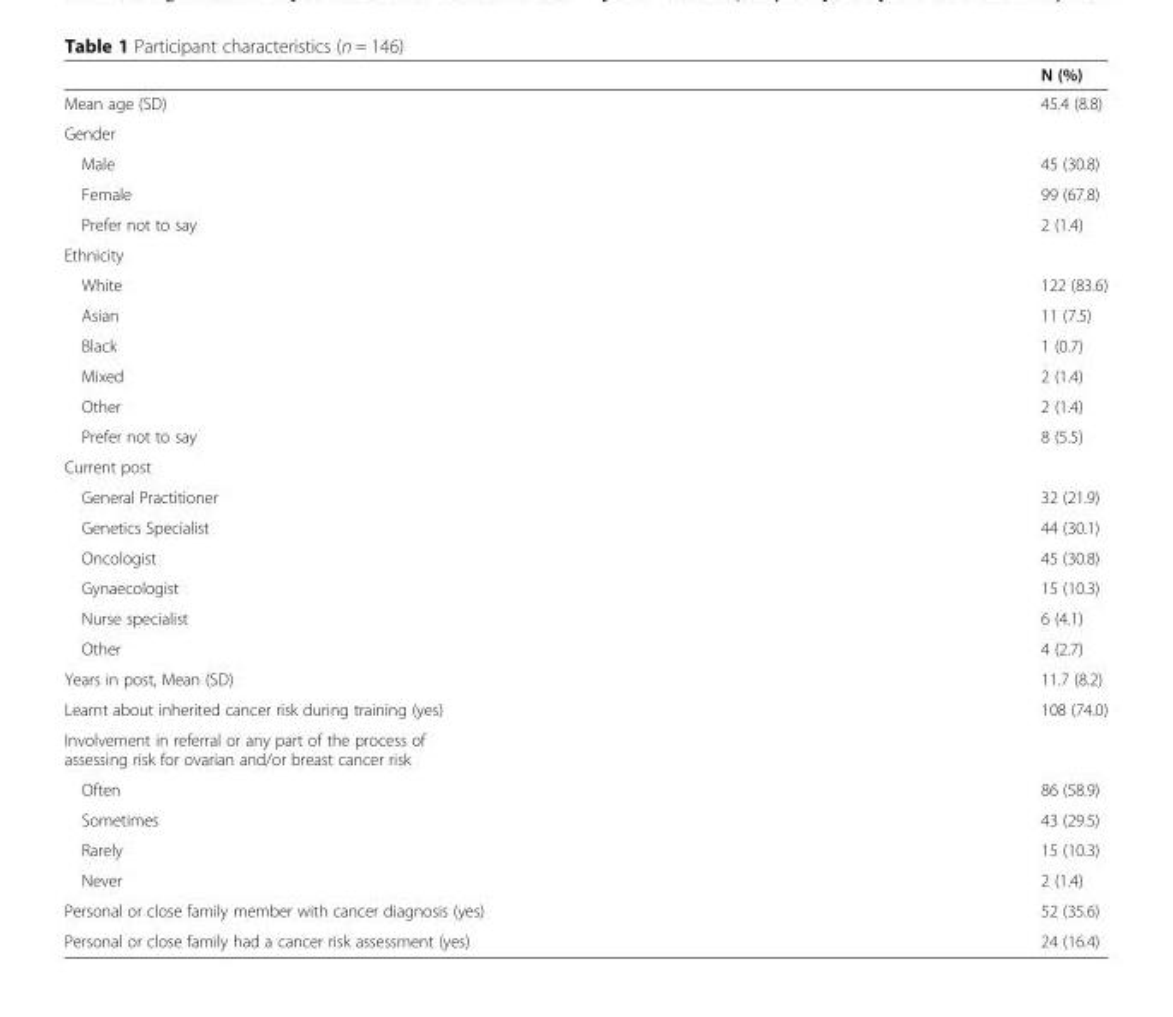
<table><thead><tr><td></td><td>N (%)</td></tr></thead><tbody><tr><td>Mean age (SD)</td><td>45.4 (8.8)</td></tr><tr><td colspan="2">Gender</td></tr><tr><td>Male</td><td>45 (30.8)</td></tr><tr><td>Female</td><td>99 (67.8)</td></tr><tr><td>Prefer not to say</td><td>2 (1.4)</td></tr><tr><td colspan="2">Ethnicity</td></tr><tr><td>White</td><td>122 (83.6)</td></tr><tr><td>Asian</td><td>11 (7.5)</td></tr><tr><td>Black</td><td>1 (0.7)</td></tr><tr><td>Mixed</td><td>2 (1.4)</td></tr><tr><td>Other</td><td>2 (1.4)</td></tr><tr><td>Prefer not to say</td><td>8 (5.5)</td></tr><tr><td colspan="2">Current post</td></tr><tr><td>General Practitioner</td><td>32 (21.9)</td></tr><tr><td>Genetics Specialist</td><td>44 (30.1)</td></tr><tr><td>Oncologist</td><td>45 (30.8)</td></tr><tr><td>Gynaecologist</td><td>15 (10.3)</td></tr><tr><td>Nurse specialist</td><td>6 (4.1)</td></tr><tr><td>Other</td><td>4 (2.7)</td></tr><tr><td>Years in post, Mean (SD)</td><td>11.7 (8.2)</td></tr><tr><td>Learnt about inherited cancer risk during training (yes)</td><td>108 (74.0)</td></tr><tr><td colspan="2">Involvement in referral or any part of the process of assessing risk for ovarian and/or breast cancer risk</td></tr><tr><td>Often</td><td>86 (58.9)</td></tr><tr><td>Sometimes</td><td>43 (29.5)</td></tr><tr><td>Rarely</td><td>15 (10.3)</td></tr><tr><td>Never</td><td>2 (1.4)</td></tr><tr><td>Personal or close family member with cancer diagnosis (yes)</td><td>52 (35.6)</td></tr><tr><td>Personal or close family had a cancer risk assessment (yes)</td><td>24 (16.4)</td></tr></tbody></table>